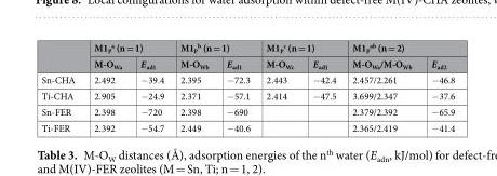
<table><thead><tr><td rowspan="2"></td><td colspan="2">M1<sub>P</sub> <sup>a</sup> (n = 1)</td><td colspan="2">M1<sub>P</sub> <sup>b</sup> (n = 1)</td><td colspan="2">M1<sub>P</sub> <sup>c</sup> (n = 1)</td><td colspan="2">M1<sub>P</sub> <sup>ab</sup> (n = 2)</td></tr><tr><td>M-O<sub>Wa</sub></td><td>E<sub>ad1</sub></td><td>M-O<sub>Wb</sub></td><td>E<sub>ad1</sub></td><td>M-O<sub>Wc</sub></td><td>E<sub>ad1</sub></td><td>M-O<sub>Wa</sub>/M-O<sub>Wb</sub></td><td>E<sub>ad2</sub></td></tr></thead><tbody><tr><td>Sn-CHA</td><td>2.492</td><td>−39.4</td><td>2.395</td><td>−72.3</td><td>2.443</td><td>−42.4</td><td>2.457/2.261</td><td>−46.8</td></tr><tr><td>Ti-CHA</td><td>2.905</td><td>−24.9</td><td>2.371</td><td>−57.1</td><td>2.414</td><td>−47.5</td><td>3.699/2.347</td><td>−37.6</td></tr><tr><td>Sn-FER</td><td>2.398</td><td>−720</td><td>2.398</td><td>−690</td><td></td><td></td><td>2.379/2.392</td><td>−65.9</td></tr><tr><td>Ti-FER</td><td>2.392</td><td>−54.7</td><td>2.449</td><td>−40.6</td><td></td><td></td><td>2.365/2.419</td><td>−41.4</td></tr></tbody></table>